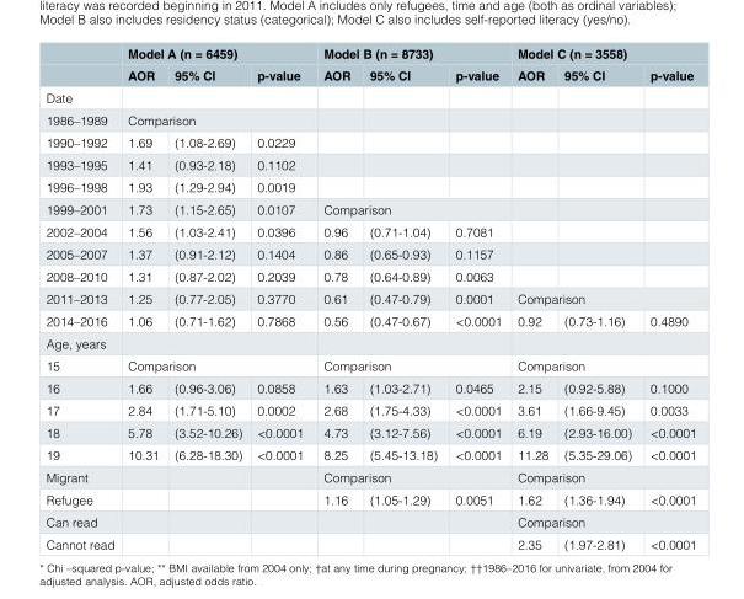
<table><thead><tr><td rowspan="2"></td><td colspan="3">Model A (n = 6459)</td><td colspan="3">Model B (n = 8733)</td><td colspan="3">Model C (n = 3558)</td></tr><tr><td>AOR</td><td>95% CI</td><td>p-value</td><td>AOR</td><td>95% CI</td><td>p-value</td><td>AOR</td><td>95% CI</td><td>p-value</td></tr></thead><tbody><tr><td colspan="10">Date</td></tr><tr><td>1986–1989</td><td colspan="3">Comparison</td><td></td><td></td><td></td><td></td><td></td><td></td></tr><tr><td>1990–1992</td><td>1.69</td><td>(1.08-2.69)</td><td>0.0229</td><td></td><td></td><td></td><td></td><td></td><td></td></tr><tr><td>1993–1995</td><td>1.41</td><td>(0.93-2.18)</td><td>0.1102</td><td></td><td></td><td></td><td></td><td></td><td></td></tr><tr><td>1996–1998</td><td>1.93</td><td>(1.29-2.94)</td><td>0.0019</td><td></td><td></td><td></td><td></td><td></td><td></td></tr><tr><td>1999–2001</td><td>1.73</td><td>(1.15-2.65)</td><td>0.0107</td><td colspan="3">Comparison</td><td></td><td></td><td></td></tr><tr><td>2002–2004</td><td>1.56</td><td>(1.03-2.41)</td><td>0.0396</td><td>0.96</td><td>(0.71-1.04)</td><td>0.7081</td><td></td><td></td><td></td></tr><tr><td>2005–2007</td><td>1.37</td><td>(0.91-2.12)</td><td>0.1404</td><td>0.86</td><td>(0.65-0.93)</td><td>0.1157</td><td></td><td></td><td></td></tr><tr><td>2008–2010</td><td>1.31</td><td>(0.87-2.02)</td><td>0.2039</td><td>0.78</td><td>(0.64-0.89)</td><td>0.0063</td><td></td><td></td><td></td></tr><tr><td>2011–2013</td><td>1.25</td><td>(0.77-2.05)</td><td>0.3770</td><td>0.61</td><td>(0.47-0.79)</td><td>0.0001</td><td colspan="3">Comparison</td></tr><tr><td>2014–2016</td><td>1.06</td><td>(0.71-1.62)</td><td>0.7868</td><td>0.56</td><td>(0.47-0.67)</td><td>&lt;0.0001</td><td>0.92</td><td>(0.73-1.16)</td><td>0.4890</td></tr><tr><td colspan="10">Age, years</td></tr><tr><td>15</td><td colspan="3">Comparison</td><td colspan="3">Comparison</td><td colspan="3">Comparison</td></tr><tr><td>16</td><td>1.66</td><td>(0.96-3.06)</td><td>0.0858</td><td>1.63</td><td>(1.03-2.71)</td><td>0.0465</td><td>2.15</td><td>(0.92-5.88)</td><td>0.1000</td></tr><tr><td>17</td><td>2.84</td><td>(1.71-5.10)</td><td>0.0002</td><td>2.68</td><td>(1.75-4.33)</td><td>&lt;0.0001</td><td>3.61</td><td>(1.66-9.45)</td><td>0.0033</td></tr><tr><td>18</td><td>5.78</td><td>(3.52-10.26)</td><td>&lt;0.0001</td><td>4.73</td><td>(3.12-7.56)</td><td>&lt;0.0001</td><td>6.19</td><td>(2.93-16.00)</td><td>&lt;0.0001</td></tr><tr><td>19</td><td>10.31</td><td>(6.28-18.30)</td><td>&lt;0.0001</td><td>8.25</td><td>(5.45-13.18)</td><td>&lt;0.0001</td><td>11.28</td><td>(5.35-29.06)</td><td>&lt;0.0001</td></tr><tr><td>Migrant</td><td></td><td></td><td></td><td colspan="3">Comparison</td><td colspan="3">Comparison</td></tr><tr><td>Refugee</td><td></td><td></td><td></td><td>1.16</td><td>(1.05-1.29)</td><td>0.0051</td><td>1.62</td><td>(1.36-1.94)</td><td>&lt;0.0001</td></tr><tr><td>Can read</td><td></td><td></td><td></td><td></td><td></td><td></td><td colspan="3">Comparison</td></tr><tr><td>Cannot read</td><td></td><td></td><td></td><td></td><td></td><td></td><td>2.35</td><td>(1.97-2.81)</td><td>&lt;0.0001</td></tr></tbody></table>